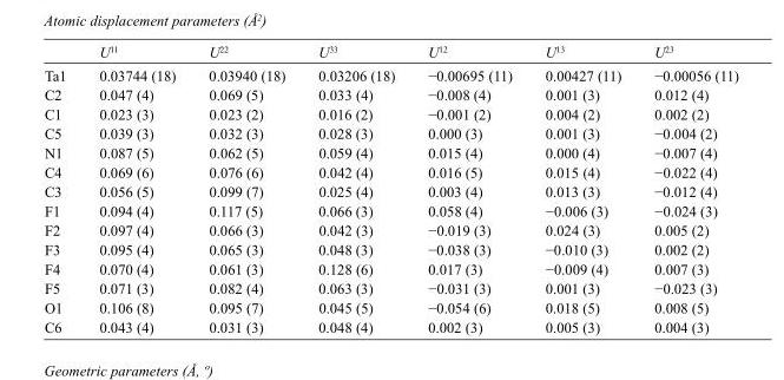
<table><thead><tr><td></td><td>U<sup>11</sup></td><td>U<sup>22</sup></td><td>U<sup>33</sup></td><td>U<sup>12</sup></td><td>U<sup>13</sup></td><td>U<sup>23</sup></td></tr></thead><tbody><tr><td>Ta1</td><td>0.03744 (18)</td><td>0.03940 (18)</td><td>0.03206 (18)</td><td>−0.00695 (11)</td><td>0.00427 (11)</td><td>−0.00056 (11)</td></tr><tr><td>C2</td><td>0.047 (4)</td><td>0.069 (5)</td><td>0.033 (4)</td><td>−0.008 (4)</td><td>0.001 (3)</td><td>0.012 (4)</td></tr><tr><td>C1</td><td>0.023 (3)</td><td>0.023 (2)</td><td>0.016 (2)</td><td>−0.001 (2)</td><td>0.004 (2)</td><td>0.002 (2)</td></tr><tr><td>C5</td><td>0.039 (3)</td><td>0.032 (3)</td><td>0.028 (3)</td><td>0.000 (3)</td><td>0.001 (3)</td><td>−0.004 (2)</td></tr><tr><td>N1</td><td>0.087 (5)</td><td>0.062 (5)</td><td>0.059 (4)</td><td>0.015 (4)</td><td>0.000 (4)</td><td>−0.007 (4)</td></tr><tr><td>C4</td><td>0.069 (6)</td><td>0.076 (6)</td><td>0.042 (4)</td><td>0.016 (5)</td><td>0.015 (4)</td><td>−0.022 (4)</td></tr><tr><td>C3</td><td>0.056 (5)</td><td>0.099 (7)</td><td>0.025 (4)</td><td>0.003 (4)</td><td>0.013 (3)</td><td>−0.012 (4)</td></tr><tr><td>F1</td><td>0.094 (4)</td><td>0.117 (5)</td><td>0.066 (3)</td><td>0.058 (4)</td><td>−0.006 (3)</td><td>−0.024 (3)</td></tr><tr><td>F2</td><td>0.097 (4)</td><td>0.066 (3)</td><td>0.042 (3)</td><td>−0.019 (3)</td><td>0.024 (3)</td><td>0.005 (2)</td></tr><tr><td>F3</td><td>0.095 (4)</td><td>0.065 (3)</td><td>0.048 (3)</td><td>−0.038 (3)</td><td>−0.010 (3)</td><td>0.002 (2)</td></tr><tr><td>F4</td><td>0.070 (4)</td><td>0.061 (3)</td><td>0.128 (6)</td><td>0.017 (3)</td><td>−0.009 (4)</td><td>0.007 (3)</td></tr><tr><td>F5</td><td>0.071 (3)</td><td>0.082 (4)</td><td>0.063 (3)</td><td>−0.031 (3)</td><td>0.001 (3)</td><td>−0.023 (3)</td></tr><tr><td>O1</td><td>0.106 (8)</td><td>0.095 (7)</td><td>0.045 (5)</td><td>−0.054 (6)</td><td>0.018 (5)</td><td>0.008 (5)</td></tr><tr><td>C6</td><td>0.043 (4)</td><td>0.031 (3)</td><td>0.048 (4)</td><td>0.002 (3)</td><td>0.005 (3)</td><td>0.004 (3)</td></tr></tbody></table>